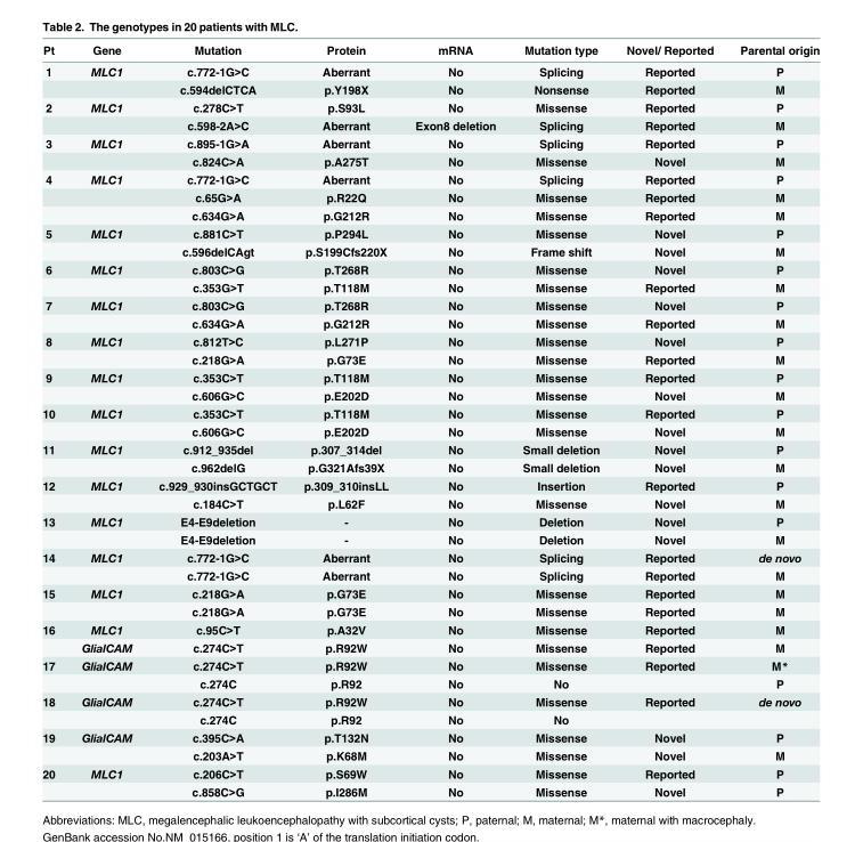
<table><thead><tr><td>Pt</td><td>Gene</td><td>Mutation</td><td>Protein</td><td>mRNA</td><td>Mutation type</td><td>Novel/ Reported</td><td>Parental origin</td></tr></thead><tbody><tr><td rowspan="2">1</td><td>MLC1</td><td>c.772-1G&gt;C</td><td>Aberrant</td><td>No</td><td>Splicing</td><td>Reported</td><td>P</td></tr><tr><td></td><td>c.594delCTCA</td><td>p.Y198X</td><td>No</td><td>Nonsense</td><td>Reported</td><td>M</td></tr><tr><td rowspan="2">2</td><td>MLC1</td><td>c.278C&gt;T</td><td>p.S93L</td><td>No</td><td>Missense</td><td>Reported</td><td>P</td></tr><tr><td></td><td>c.598-2A&gt;C</td><td>Aberrant</td><td>Exon8 deletion</td><td>Splicing</td><td>Reported</td><td>M</td></tr><tr><td rowspan="2">3</td><td>MLC1</td><td>c.895-1G&gt;A</td><td>Aberrant</td><td>No</td><td>Splicing</td><td>Reported</td><td>P</td></tr><tr><td></td><td>c.824C&gt;A</td><td>p.A275T</td><td>No</td><td>Missense</td><td>Novel</td><td>M</td></tr><tr><td rowspan="3">4</td><td>MLC1</td><td>c.772-1G&gt;C</td><td>Aberrant</td><td>No</td><td>Splicing</td><td>Reported</td><td>P</td></tr><tr><td></td><td>c.65G&gt;A</td><td>p.R22Q</td><td>No</td><td>Missense</td><td>Reported</td><td>M</td></tr><tr><td></td><td>c.634G&gt;A</td><td>p.G212R</td><td>No</td><td>Missense</td><td>Reported</td><td>M</td></tr><tr><td rowspan="2">5</td><td>MLC1</td><td>c.881C&gt;T</td><td>p.P294L</td><td>No</td><td>Missense</td><td>Novel</td><td>P</td></tr><tr><td></td><td>c.596delCAgt</td><td>p.S199Cfs220X</td><td>No</td><td>Frame shift</td><td>Novel</td><td>M</td></tr><tr><td rowspan="2">6</td><td>MLC1</td><td>c.803C&gt;G</td><td>p.T268R</td><td>No</td><td>Missense</td><td>Novel</td><td>P</td></tr><tr><td></td><td>c.353G&gt;T</td><td>p.T118M</td><td>No</td><td>Missense</td><td>Reported</td><td>M</td></tr><tr><td rowspan="2">7</td><td>MLC1</td><td>c.803C&gt;G</td><td>p.T268R</td><td>No</td><td>Missense</td><td>Novel</td><td>P</td></tr><tr><td></td><td>c.634G&gt;A</td><td>p.G212R</td><td>No</td><td>Missense</td><td>Reported</td><td>M</td></tr><tr><td rowspan="2">8</td><td>MLC1</td><td>c.812T&gt;C</td><td>p.L271P</td><td>No</td><td>Missense</td><td>Novel</td><td>P</td></tr><tr><td></td><td>c.218G&gt;A</td><td>p.G73E</td><td>No</td><td>Missense</td><td>Reported</td><td>M</td></tr><tr><td rowspan="2">9</td><td>MLC1</td><td>c.353C&gt;T</td><td>p.T118M</td><td>No</td><td>Missense</td><td>Reported</td><td>P</td></tr><tr><td></td><td>c.606G&gt;C</td><td>p.E202D</td><td>No</td><td>Missense</td><td>Novel</td><td>M</td></tr><tr><td rowspan="2">10</td><td>MLC1</td><td>c.353C&gt;T</td><td>p.T118M</td><td>No</td><td>Missense</td><td>Reported</td><td>P</td></tr><tr><td></td><td>c.606G&gt;C</td><td>p.E202D</td><td>No</td><td>Missense</td><td>Novel</td><td>M</td></tr><tr><td rowspan="2">11</td><td>MLC1</td><td>c.912_935del</td><td>p.307_314del</td><td>No</td><td>Small deletion</td><td>Novel</td><td>P</td></tr><tr><td></td><td>c.962delG</td><td>p.G321Afs39X</td><td>No</td><td>Small deletion</td><td>Novel</td><td>M</td></tr><tr><td rowspan="2">12</td><td>MLC1</td><td>c.929_930insGCTGCT</td><td>p.309_310insLL</td><td>No</td><td>Insertion</td><td>Reported</td><td>P</td></tr><tr><td></td><td>c.184C&gt;T</td><td>p.L62F</td><td>No</td><td>Missense</td><td>Novel</td><td>M</td></tr><tr><td rowspan="2">13</td><td>MLC1</td><td>E4-E9deletion</td><td>-</td><td>No</td><td>Deletion</td><td>Novel</td><td>P</td></tr><tr><td></td><td>E4-E9deletion</td><td>-</td><td>No</td><td>Deletion</td><td>Novel</td><td>M</td></tr><tr><td rowspan="2">14</td><td>MLC1</td><td>c.772-1G&gt;C</td><td>Aberrant</td><td>No</td><td>Splicing</td><td>Reported</td><td>de novo</td></tr><tr><td></td><td>c.772-1G&gt;C</td><td>Aberrant</td><td>No</td><td>Splicing</td><td>Reported</td><td>M</td></tr><tr><td rowspan="2">15</td><td>MLC1</td><td>c.218G&gt;A</td><td>p.G73E</td><td>No</td><td>Missense</td><td>Reported</td><td>M</td></tr><tr><td></td><td>c.218G&gt;A</td><td>p.G73E</td><td>No</td><td>Missense</td><td>Reported</td><td>M</td></tr><tr><td rowspan="2">16</td><td>MLC1</td><td>c.95C&gt;T</td><td>p.A32V</td><td>No</td><td>Missense</td><td>Reported</td><td>M</td></tr><tr><td>GlialCAM</td><td>c.274C&gt;T</td><td>p.R92W</td><td>No</td><td>Missense</td><td>Reported</td><td>M</td></tr><tr><td rowspan="2">17</td><td>GlialCAM</td><td>c.274C&gt;T</td><td>p.R92W</td><td>No</td><td>Missense</td><td>Reported</td><td>M*</td></tr><tr><td></td><td>c.274C</td><td>p.R92</td><td>No</td><td>No</td><td></td><td>P</td></tr><tr><td rowspan="2">18</td><td>GlialCAM</td><td>c.274C&gt;T</td><td>p.R92W</td><td>No</td><td>Missense</td><td>Reported</td><td>de novo</td></tr><tr><td></td><td>c.274C</td><td>p.R92</td><td>No</td><td>No</td><td></td><td></td></tr><tr><td rowspan="2">19</td><td>GlialCAM</td><td>c.395C&gt;A</td><td>p.T132N</td><td>No</td><td>Missense</td><td>Novel</td><td>P</td></tr><tr><td></td><td>c.203A&gt;T</td><td>p.K68M</td><td>No</td><td>Missense</td><td>Novel</td><td>M</td></tr><tr><td rowspan="2">20</td><td>MLC1</td><td>c.206C&gt;T</td><td>p.S69W</td><td>No</td><td>Missense</td><td>Reported</td><td>P</td></tr><tr><td></td><td>c.858C&gt;G</td><td>p.I286M</td><td>No</td><td>Missense</td><td>Novel</td><td>P</td></tr></tbody></table>